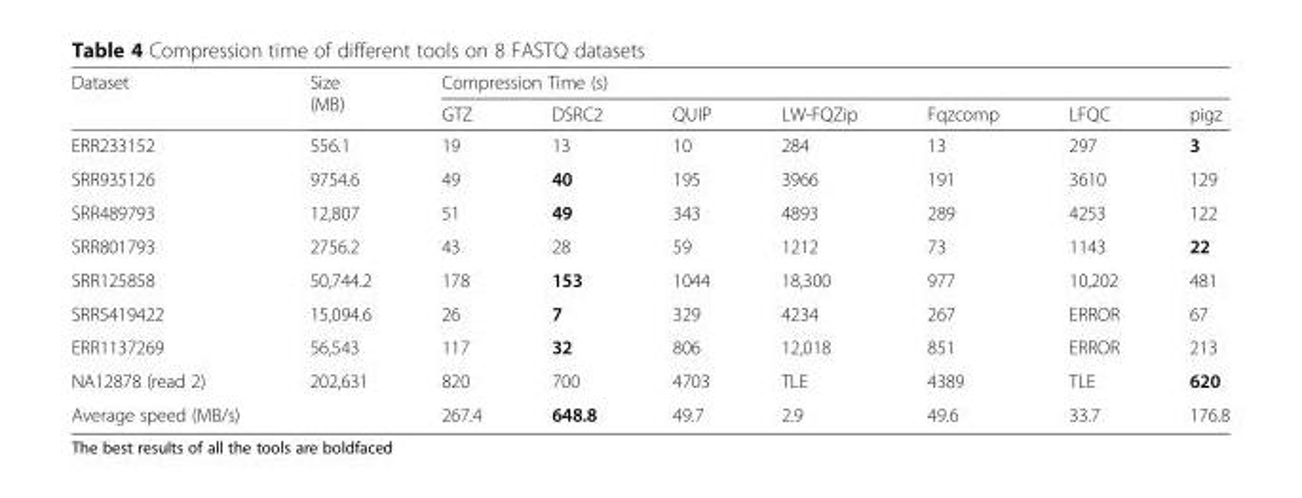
<table><thead><tr><td rowspan="2">Dataset</td><td rowspan="2">Size (MB)</td><td colspan="7">Compression Time (s)</td></tr><tr><td>GTZ</td><td>DSRC2</td><td>QUIP</td><td>LW-FQZip</td><td>Fqzcomp</td><td>LFQC</td><td>pigz</td></tr></thead><tbody><tr><td>ERR233152</td><td>556.1</td><td>19</td><td>13</td><td>10</td><td>284</td><td>13</td><td>297</td><td>3</td></tr><tr><td>SRR935126</td><td>9754.6</td><td>49</td><td>40</td><td>195</td><td>3966</td><td>191</td><td>3610</td><td>129</td></tr><tr><td>SRR489793</td><td>12,807</td><td>51</td><td>49</td><td>343</td><td>4893</td><td>289</td><td>4253</td><td>122</td></tr><tr><td>SRR801793</td><td>2756.2</td><td>43</td><td>28</td><td>59</td><td>1212</td><td>73</td><td>1143</td><td>22</td></tr><tr><td>SRR125858</td><td>50,744.2</td><td>178</td><td>153</td><td>1044</td><td>18,300</td><td>977</td><td>10,202</td><td>481</td></tr><tr><td>SRR5419422</td><td>15,094.6</td><td>26</td><td>7</td><td>329</td><td>4234</td><td>267</td><td>ERROR</td><td>67</td></tr><tr><td>ERR1137269</td><td>56,543</td><td>117</td><td>32</td><td>806</td><td>12,018</td><td>851</td><td>ERROR</td><td>213</td></tr><tr><td>NA12878 (read 2)</td><td>202,631</td><td>820</td><td>700</td><td>4703</td><td>TLE</td><td>4389</td><td>TLE</td><td>620</td></tr><tr><td>Average speed (MB/s)</td><td></td><td>267.4</td><td>648.8</td><td>49.7</td><td>2.9</td><td>49.6</td><td>33.7</td><td>176.8</td></tr></tbody></table>